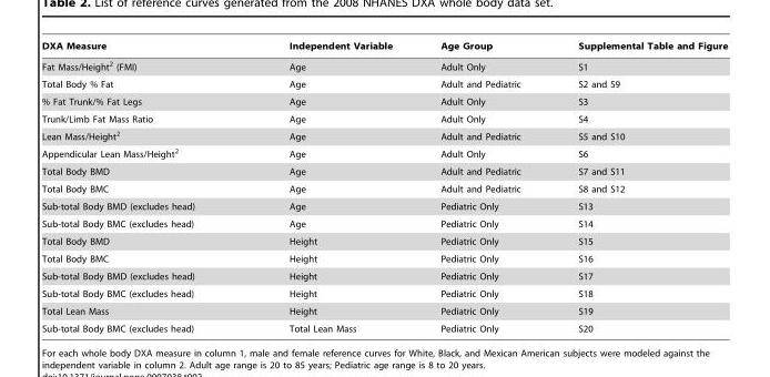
<table><thead><tr><td>DXA Measure</td><td>Independent Variable</td><td>Age Group</td><td>Supplemental Table and Figure</td></tr></thead><tbody><tr><td>Fat Mass/Height<sup>2</sup> (FMI)</td><td>Age</td><td>Adult Only</td><td>S1</td></tr><tr><td>Total Body % Fat</td><td>Age</td><td>Adult and Pediatric</td><td>S2 and S9</td></tr><tr><td>% Fat Trunk/% Fat Legs</td><td>Age</td><td>Adult Only</td><td>S3</td></tr><tr><td>Trunk/Limb Fat Mass Ratio</td><td>Age</td><td>Adult Only</td><td>S4</td></tr><tr><td>Lean Mass/Height<sup>2</sup></td><td>Age</td><td>Adult and Pediatric</td><td>S5 and S10</td></tr><tr><td>Appendicular Lean Mass/Height<sup>2</sup></td><td>Age</td><td>Adult Only</td><td>S6</td></tr><tr><td>Total Body BMD</td><td>Age</td><td>Adult and Pediatric</td><td>S7 and S11</td></tr><tr><td>Total Body BMC</td><td>Age</td><td>Adult and Pediatric</td><td>S8 and S12</td></tr><tr><td>Sub-total Body BMD (excludes head)</td><td>Age</td><td>Pediatric Only</td><td>S13</td></tr><tr><td>Sub-total Body BMC (excludes head)</td><td>Age</td><td>Pediatric Only</td><td>S14</td></tr><tr><td>Total Body BMD</td><td>Height</td><td>Pediatric Only</td><td>S15</td></tr><tr><td>Total Body BMC</td><td>Height</td><td>Pediatric Only</td><td>S16</td></tr><tr><td>Sub-total Body BMD (excludes head)</td><td>Height</td><td>Pediatric Only</td><td>S17</td></tr><tr><td>Sub-total Body BMC (excludes head)</td><td>Height</td><td>Pediatric Only</td><td>S18</td></tr><tr><td>Total Lean Mass</td><td>Height</td><td>Pediatric Only</td><td>S19</td></tr><tr><td>Sub-total Body BMC (excludes head)</td><td>Total Lean Mass</td><td>Pediatric Only</td><td>S20</td></tr></tbody></table>